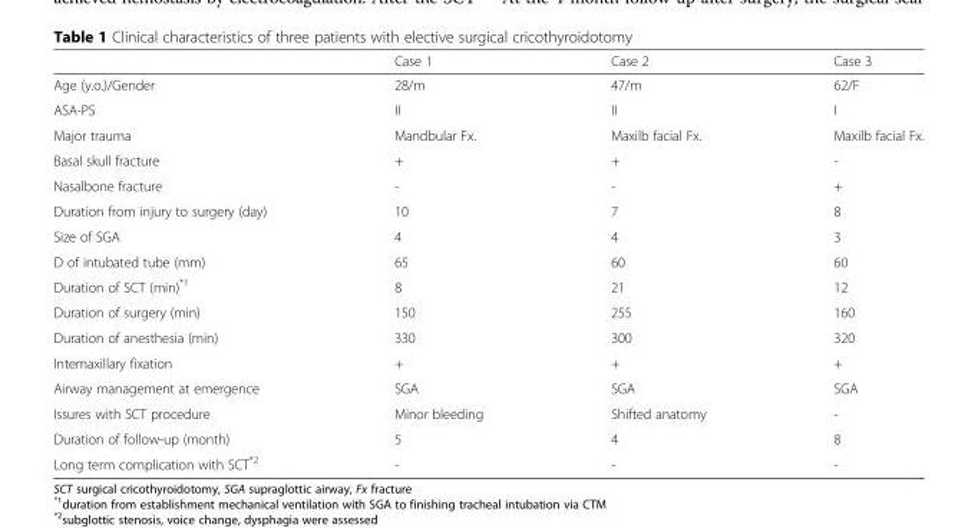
<table><thead><tr><td></td><td>Case 1</td><td>Case 2</td><td>Case 3</td></tr></thead><tbody><tr><td>Age (y.o.)/Gender</td><td>28/m</td><td>47/m</td><td>62/F</td></tr><tr><td>ASA-PS</td><td>II</td><td>II</td><td>I</td></tr><tr><td>Major trauma</td><td>Mandbular Fx.</td><td>Maxilb facial Fx.</td><td>Maxilb facial Fx.</td></tr><tr><td>Basal skull fracture</td><td>+</td><td>+</td><td>-</td></tr><tr><td>Nasalbone fracture</td><td>-</td><td>-</td><td>+</td></tr><tr><td>Duration from injury to surgery (day)</td><td>10</td><td>7</td><td>8</td></tr><tr><td>Size of SGA</td><td>4</td><td>4</td><td>3</td></tr><tr><td>D of intubated tube (mm)</td><td>65</td><td>60</td><td>60</td></tr><tr><td>Duration of SCT (min)<sup>*1</sup></td><td>8</td><td>21</td><td>12</td></tr><tr><td>Duration of surgery (min)</td><td>150</td><td>255</td><td>160</td></tr><tr><td>Duration of anesthesia (min)</td><td>330</td><td>300</td><td>320</td></tr><tr><td>Intemaxillary fixation</td><td>+</td><td>+</td><td>+</td></tr><tr><td>Airway management at emergence</td><td>SGA</td><td>SGA</td><td>SGA</td></tr><tr><td>Issures with SCT procedure</td><td>Minor bleeding</td><td>Shifted anatomy</td><td>-</td></tr><tr><td>Duration of follow-up (month)</td><td>5</td><td>4</td><td>8</td></tr><tr><td>Long term complication with SCT<sup>*2</sup></td><td>-</td><td>-</td><td>-</td></tr></tbody></table>